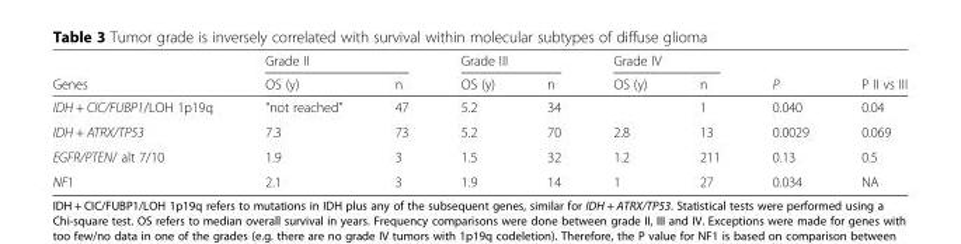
<table><thead><tr><td rowspan="2">Genes</td><td colspan="2">Grade II</td><td colspan="2">Grade III</td><td colspan="2">Grade IV</td><td rowspan="2">P</td><td rowspan="2">P II vs III</td></tr><tr><td>OS (y)</td><td>n</td><td>OS (y)</td><td>n</td><td>OS (y)</td><td>n</td></tr></thead><tbody><tr><td>IDH + CIC/FUBP1/LOH 1p19q</td><td>&quot;not reached&quot;</td><td>47</td><td>5.2</td><td>34</td><td></td><td>1</td><td>0.040</td><td>0.04</td></tr><tr><td>IDH + ATRX/TP53</td><td>7.3</td><td>73</td><td>5.2</td><td>70</td><td>2.8</td><td>13</td><td>0.0029</td><td>0.069</td></tr><tr><td>EGFR/PTEN/ alt 7/10</td><td>1.9</td><td>3</td><td>1.5</td><td>32</td><td>1.2</td><td>211</td><td>0.13</td><td>0.5</td></tr><tr><td>NF1</td><td>2.1</td><td>3</td><td>1.9</td><td>14</td><td>1</td><td>27</td><td>0.034</td><td>NA</td></tr></tbody></table>